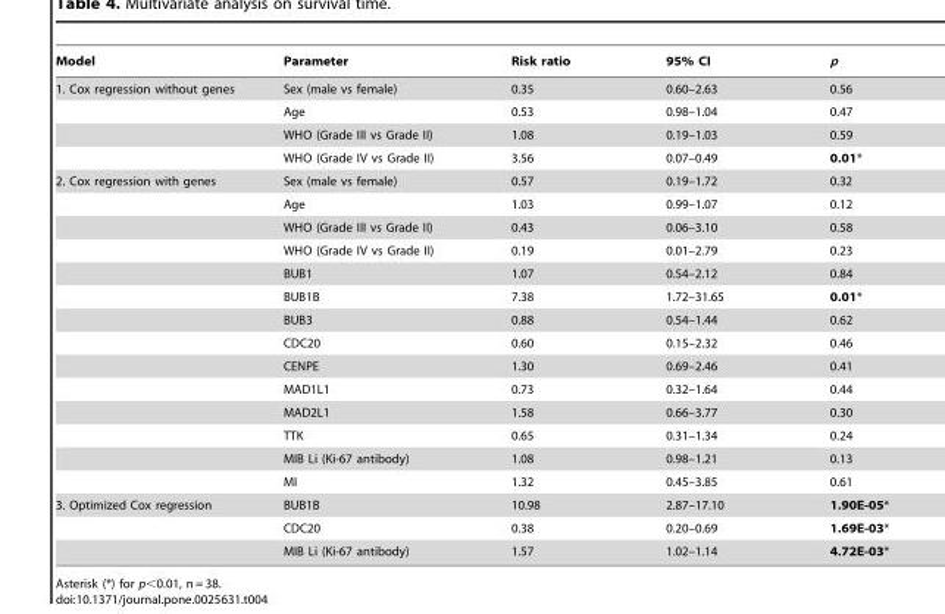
<table><thead><tr><td>Model</td><td>Parameter</td><td>Risk ratio</td><td>95% CI</td><td>p</td></tr></thead><tbody><tr><td rowspan="4">1. Cox regression without genes</td><td>Sex (male vs female)</td><td>0.35</td><td>0.60–2.63</td><td>0.56</td></tr><tr><td>Age</td><td>0.53</td><td>0.98–1.04</td><td>0.47</td></tr><tr><td>WHO (Grade III vs Grade II)</td><td>1.08</td><td>0.19–1.03</td><td>0.59</td></tr><tr><td>WHO (Grade IV vs Grade II)</td><td>3.56</td><td>0.07–0.49</td><td>0.01*</td></tr><tr><td rowspan="14">2. Cox regression with genes</td><td>Sex (male vs female)</td><td>0.57</td><td>0.19–1.72</td><td>0.32</td></tr><tr><td>Age</td><td>1.03</td><td>0.99–1.07</td><td>0.12</td></tr><tr><td>WHO (Grade III vs Grade II)</td><td>0.43</td><td>0.06–3.10</td><td>0.58</td></tr><tr><td>WHO (Grade IV vs Grade II)</td><td>0.19</td><td>0.01–2.79</td><td>0.23</td></tr><tr><td>BUB1</td><td>1.07</td><td>0.54–2.12</td><td>0.84</td></tr><tr><td>BUB1B</td><td>7.38</td><td>1.72–31.65</td><td>0.01*</td></tr><tr><td>BUB3</td><td>0.88</td><td>0.54–1.44</td><td>0.62</td></tr><tr><td>CDC20</td><td>0.60</td><td>0.15–2.32</td><td>0.46</td></tr><tr><td>CENPE</td><td>1.30</td><td>0.69–2.46</td><td>0.41</td></tr><tr><td>MAD1L1</td><td>0.73</td><td>0.32–1.64</td><td>0.44</td></tr><tr><td>MAD2L1</td><td>1.58</td><td>0.66–3.77</td><td>0.30</td></tr><tr><td>TTK</td><td>0.65</td><td>0.31–1.34</td><td>0.24</td></tr><tr><td>MIB Li (Ki-67 antibody)</td><td>1.08</td><td>0.98–1.21</td><td>0.13</td></tr><tr><td>MI</td><td>1.32</td><td>0.45–3.85</td><td>0.61</td></tr><tr><td rowspan="3">3. Optimized Cox regression</td><td>BUB1B</td><td>10.98</td><td>2.87–17.10</td><td>1.90E-05*</td></tr><tr><td>CDC20</td><td>0.38</td><td>0.20–0.69</td><td>1.69E-03*</td></tr><tr><td>MIB Li (Ki-67 antibody)</td><td>1.57</td><td>1.02–1.14</td><td>4.72E-03*</td></tr></tbody></table>